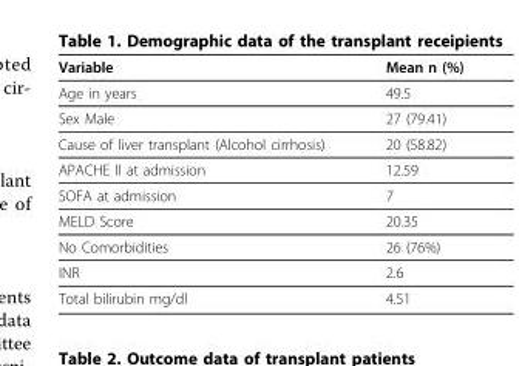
<table><thead><tr><td>Variable</td><td>Mean n (%)</td></tr></thead><tbody><tr><td>Age in years</td><td>49.5</td></tr><tr><td>Sex Male</td><td>27 (79.41)</td></tr><tr><td>Cause of liver transplant (Alcohol cirrhosis)</td><td>20 (58.82)</td></tr><tr><td>APACHE II at admission</td><td>12.59</td></tr><tr><td>SOFA at admission</td><td>7</td></tr><tr><td>MELD Score</td><td>20.35</td></tr><tr><td>No Comorbidities</td><td>26 (76%)</td></tr><tr><td>INR</td><td>2.6</td></tr><tr><td>Total bilirubin mg/dl</td><td>4.51</td></tr></tbody></table>